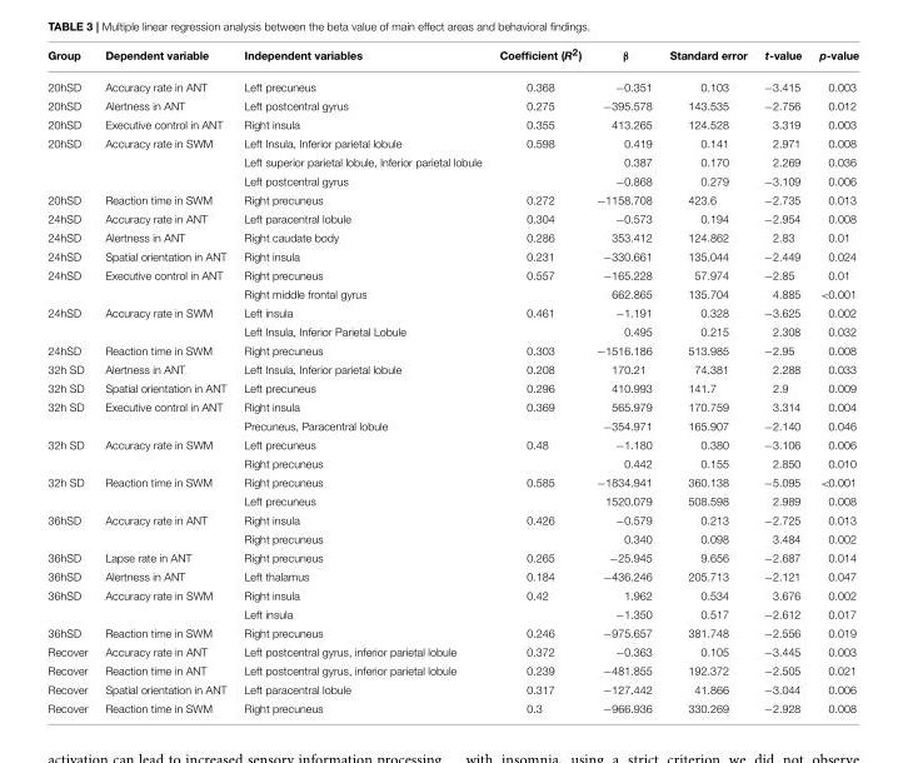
<table><thead><tr><td>Group</td><td>Dependent variable</td><td>Independent variables</td><td>Coefficient (R<sup>2</sup>)</td><td>β</td><td>Standard error</td><td>t-value</td><td>p-value</td></tr></thead><tbody><tr><td>20hSD</td><td>Accuracy rate in ANT</td><td>Left precuneus</td><td>0.368</td><td>−0.351</td><td>0.103</td><td>−3.415</td><td>0.003</td></tr><tr><td>20hSD</td><td>Alertness in ANT</td><td>Left postcentral gyrus</td><td>0.275</td><td>−395.578</td><td>143.535</td><td>−2.756</td><td>0.012</td></tr><tr><td>20hSD</td><td>Executive control in ANT</td><td>Right insula</td><td>0.355</td><td>413.265</td><td>124.528</td><td>3.319</td><td>0.003</td></tr><tr><td rowspan="3">20hSD</td><td>Accuracy rate in SWM</td><td>Left Insula, Inferior parietal lobule</td><td>0.598</td><td>0.419</td><td>0.141</td><td>2.971</td><td>0.008</td></tr><tr><td></td><td>Left superior parietal lobule, lnferior parietal lobule</td><td></td><td>0.387</td><td>0.170</td><td>2.269</td><td>0.036</td></tr><tr><td></td><td>Left postcentral gyrus</td><td></td><td>−0.868</td><td>0.279</td><td>−3.109</td><td>0.006</td></tr><tr><td>20hSD</td><td>Reaction time in SWM</td><td>Right precuneus</td><td>0.272</td><td>−1158.708</td><td>423.6</td><td>−2.735</td><td>0.013</td></tr><tr><td>24hSD</td><td>Accuracy rate in ANT</td><td>Left paracentral lobule</td><td>0.304</td><td>−0.573</td><td>0.194</td><td>−2.954</td><td>0.008</td></tr><tr><td>24hSD</td><td>Alertness in ANT</td><td>Right caudate body</td><td>0.286</td><td>353.412</td><td>124.862</td><td>2.83</td><td>0.01</td></tr><tr><td>24hSD</td><td>Spatial orientation in ANT</td><td>Right insula</td><td>0.231</td><td>−330.661</td><td>135.044</td><td>−2.449</td><td>0.024</td></tr><tr><td rowspan="2">24hSD</td><td>Executive control in ANT</td><td>Right precuneus</td><td>0.557</td><td>−165.228</td><td>57.974</td><td>−2.85</td><td>0.01</td></tr><tr><td></td><td>Right middle frontal gyrus</td><td></td><td>662.865</td><td>135.704</td><td>4.885</td><td>&lt;0.001</td></tr><tr><td rowspan="2">24hSD</td><td>Accuracy rate in SWM</td><td>Left insula</td><td>0.461</td><td>−1.191</td><td>0.328</td><td>−3.625</td><td>0.002</td></tr><tr><td></td><td>Left Insula, Inferior Parietal Lobule</td><td></td><td>0.495</td><td>0.215</td><td>2.308</td><td>0.032</td></tr><tr><td>24hSD</td><td>Reaction time in SWM</td><td>Right precuneus</td><td>0.303</td><td>−1516.186</td><td>513.985</td><td>−2.95</td><td>0.008</td></tr><tr><td>32h SD</td><td>Alertness in ANT</td><td>Left Insula, Inferior parietal lobule</td><td>0.208</td><td>170.21</td><td>74.381</td><td>2.288</td><td>0.033</td></tr><tr><td>32h SD</td><td>Spatial orientation in ANT</td><td>Left precuneus</td><td>0.296</td><td>410.993</td><td>141.7</td><td>2.9</td><td>0.009</td></tr><tr><td rowspan="2">32h SD</td><td>Executive control in ANT</td><td>Right insula</td><td>0.369</td><td>565.979</td><td>170.759</td><td>3.314</td><td>0.004</td></tr><tr><td></td><td>Precuneus, Paracentral lobule</td><td></td><td>−354.971</td><td>165.907</td><td>−2.140</td><td>0.046</td></tr><tr><td rowspan="2">32h SD</td><td>Accuracy rate in SWM</td><td>Left precuneus</td><td>0.48</td><td>−1.180</td><td>0.380</td><td>−3.106</td><td>0.006</td></tr><tr><td></td><td>Right precuneus</td><td></td><td>0.442</td><td>0.155</td><td>2.850</td><td>0.010</td></tr><tr><td rowspan="2">32h SD</td><td>Reaction time in SWM</td><td>Right precuneus</td><td>0.585</td><td>−1834.941</td><td>360.138</td><td>−5.095</td><td>&lt;0.001</td></tr><tr><td></td><td>Left precuneus</td><td></td><td>1520.079</td><td>508.598</td><td>2.989</td><td>0.008</td></tr><tr><td rowspan="2">36hSD</td><td>Accuracy rate in ANT</td><td>Right insula</td><td>0.426</td><td>−0.579</td><td>0.213</td><td>−2.725</td><td>0.013</td></tr><tr><td></td><td>Right precuneus</td><td></td><td>0.340</td><td>0.098</td><td>3.484</td><td>0.002</td></tr><tr><td>36hSD</td><td>Lapse rate in ANT</td><td>Right precuneus</td><td>0.265</td><td>−25.945</td><td>9.656</td><td>−2.687</td><td>0.014</td></tr><tr><td>36hSD</td><td>Alertness in ANT</td><td>Left thalamus</td><td>0.184</td><td>−436.246</td><td>205.713</td><td>−2.121</td><td>0.047</td></tr><tr><td rowspan="2">36hSD</td><td>Accuracy rate in SWM</td><td>Right insula</td><td>0.42</td><td>1.962</td><td>0.534</td><td>3.676</td><td>0.002</td></tr><tr><td></td><td>Left insula</td><td></td><td>−1.350</td><td>0.517</td><td>−2.612</td><td>0.017</td></tr><tr><td>36hSD</td><td>Reaction time in SWM</td><td>Right precuneus</td><td>0.246</td><td>−975.657</td><td>381.748</td><td>−2.556</td><td>0.019</td></tr><tr><td>Recover</td><td>Accuracy rate in ANT</td><td>Left postcentral gyrus, inferior parietal lobule</td><td>0.372</td><td>−0.363</td><td>0.105</td><td>−3.445</td><td>0.003</td></tr><tr><td>Recover</td><td>Reaction time in ANT</td><td>Left postcentral gyrus, inferior parietal lobule</td><td>0.239</td><td>−481.855</td><td>192.372</td><td>−2.505</td><td>0.021</td></tr><tr><td>Recover</td><td>Spatial orientation in ANT</td><td>Left paracentral lobule</td><td>0.317</td><td>−127.442</td><td>41.866</td><td>−3.044</td><td>0.006</td></tr><tr><td>Recover</td><td>Reaction time in SWM</td><td>Right precuneus</td><td>0.3</td><td>−966.936</td><td>330.269</td><td>−2.928</td><td>0.008</td></tr></tbody></table>